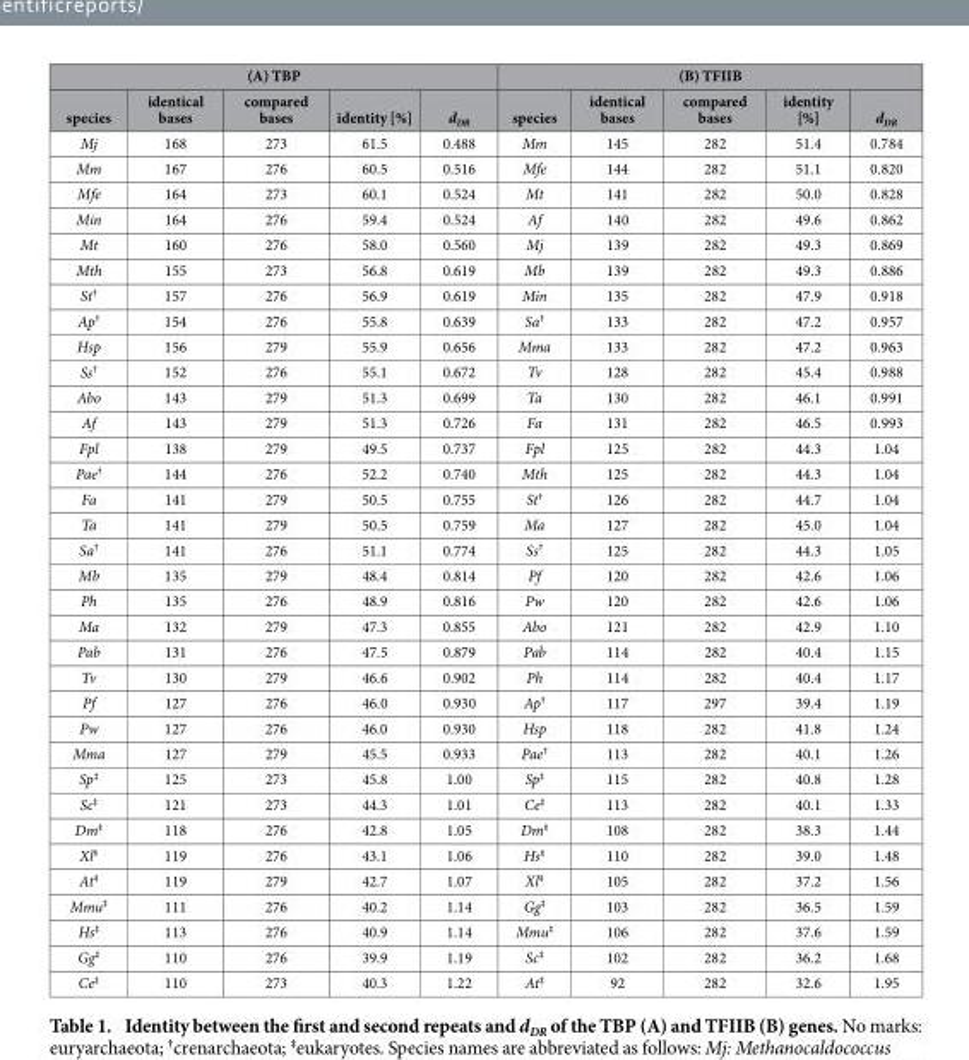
<table><thead><tr><td colspan="5">(A) TBP</td><td colspan="5">(B) TFIIB</td></tr><tr><td>species</td><td>identical bases</td><td>compared bases</td><td>identity [%]</td><td>d<sub>DR</sub></td><td>species</td><td>identical bases</td><td>compared bases</td><td>identity [%]</td><td>d<sub>DR</sub></td></tr></thead><tbody><tr><td>Mj</td><td>168</td><td>273</td><td>61.5</td><td>0.488</td><td>Mm</td><td>145</td><td>282</td><td>51.4</td><td>0.784</td></tr><tr><td>Mm</td><td>167</td><td>276</td><td>60.5</td><td>0.516</td><td>Mfe</td><td>144</td><td>282</td><td>51.1</td><td>0.820</td></tr><tr><td>Mfe</td><td>164</td><td>273</td><td>60.1</td><td>0.524</td><td>Mt</td><td>141</td><td>282</td><td>50.0</td><td>0.828</td></tr><tr><td>Min</td><td>164</td><td>276</td><td>59.4</td><td>0.524</td><td>Af</td><td>140</td><td>282</td><td>49.6</td><td>0.862</td></tr><tr><td>Mt</td><td>160</td><td>276</td><td>58.0</td><td>0.560</td><td>Mj</td><td>139</td><td>282</td><td>49.3</td><td>0.869</td></tr><tr><td>Mth</td><td>155</td><td>273</td><td>56.8</td><td>0.619</td><td>Mb</td><td>139</td><td>282</td><td>49.3</td><td>0.886</td></tr><tr><td>St<sup>†</sup></td><td>157</td><td>276</td><td>56.9</td><td>0.619</td><td>Min</td><td>135</td><td>282</td><td>47.9</td><td>0.918</td></tr><tr><td>Ap<sup>†</sup></td><td>154</td><td>276</td><td>55.8</td><td>0.639</td><td>Sa<sup>†</sup></td><td>133</td><td>282</td><td>47.2</td><td>0.957</td></tr><tr><td>Hsp</td><td>156</td><td>279</td><td>55.9</td><td>0.656</td><td>Mma</td><td>133</td><td>282</td><td>47.2</td><td>0.963</td></tr><tr><td>Ss<sup>†</sup></td><td>152</td><td>276</td><td>55.1</td><td>0.672</td><td>Tv</td><td>128</td><td>282</td><td>45.4</td><td>0.988</td></tr><tr><td>Abo</td><td>143</td><td>279</td><td>51.3</td><td>0.699</td><td>Ta</td><td>130</td><td>282</td><td>46.1</td><td>0.991</td></tr><tr><td>Af</td><td>143</td><td>279</td><td>51.3</td><td>0.726</td><td>Fa</td><td>131</td><td>282</td><td>46.5</td><td>0.993</td></tr><tr><td>Fpl</td><td>138</td><td>279</td><td>49.5</td><td>0.737</td><td>Fpl</td><td>125</td><td>282</td><td>44.3</td><td>1.04</td></tr><tr><td>Pae<sup>†</sup></td><td>144</td><td>276</td><td>52.2</td><td>0.740</td><td>Mth</td><td>125</td><td>282</td><td>44.3</td><td>1.04</td></tr><tr><td>Fa</td><td>141</td><td>279</td><td>50.5</td><td>0.755</td><td>St<sup>†</sup></td><td>126</td><td>282</td><td>44.7</td><td>1.04</td></tr><tr><td>Ta</td><td>141</td><td>279</td><td>50.5</td><td>0.759</td><td>Ma</td><td>127</td><td>282</td><td>45.0</td><td>1.04</td></tr><tr><td>Sa<sup>†</sup></td><td>141</td><td>276</td><td>51.1</td><td>0.774</td><td>Ss<sup>†</sup></td><td>125</td><td>282</td><td>44.3</td><td>1.05</td></tr><tr><td>Mb</td><td>135</td><td>279</td><td>48.4</td><td>0.814</td><td>Pf</td><td>120</td><td>282</td><td>42.6</td><td>1.06</td></tr><tr><td>Ph</td><td>135</td><td>276</td><td>48.9</td><td>0.816</td><td>Pw</td><td>120</td><td>282</td><td>42.6</td><td>1.06</td></tr><tr><td>Ma</td><td>132</td><td>279</td><td>47.3</td><td>0.855</td><td>Abo</td><td>121</td><td>282</td><td>42.9</td><td>1.10</td></tr><tr><td>Pab</td><td>131</td><td>276</td><td>47.5</td><td>0.879</td><td>Pab</td><td>114</td><td>282</td><td>40.4</td><td>1.15</td></tr><tr><td>Tv</td><td>130</td><td>279</td><td>46.6</td><td>0.902</td><td>Ph</td><td>114</td><td>282</td><td>40.4</td><td>1.17</td></tr><tr><td>Pf</td><td>127</td><td>276</td><td>46.0</td><td>0.930</td><td>Ap<sup>†</sup></td><td>117</td><td>297</td><td>39.4</td><td>1.19</td></tr><tr><td>Pw</td><td>127</td><td>276</td><td>46.0</td><td>0.930</td><td>Hsp</td><td>118</td><td>282</td><td>41.8</td><td>1.24</td></tr><tr><td>Mma</td><td>127</td><td>279</td><td>45.5</td><td>0.933</td><td>Pae<sup>†</sup></td><td>113</td><td>282</td><td>40.1</td><td>1.26</td></tr><tr><td>Sp<sup>‡</sup></td><td>125</td><td>273</td><td>45.8</td><td>1.00</td><td>Sp<sup>‡</sup></td><td>115</td><td>282</td><td>40.8</td><td>1.28</td></tr><tr><td>Sc<sup>‡</sup></td><td>121</td><td>273</td><td>44.3</td><td>1.01</td><td>Ce<sup>‡</sup></td><td>113</td><td>282</td><td>40.1</td><td>1.33</td></tr><tr><td>Dm<sup>‡</sup></td><td>118</td><td>276</td><td>42.8</td><td>1.05</td><td>Dm<sup>‡</sup></td><td>108</td><td>282</td><td>38.3</td><td>1.44</td></tr><tr><td>Xl<sup>‡</sup></td><td>119</td><td>276</td><td>43.1</td><td>1.06</td><td>Hs<sup>‡</sup></td><td>110</td><td>282</td><td>39.0</td><td>1.48</td></tr><tr><td>At<sup>‡</sup></td><td>119</td><td>279</td><td>42.7</td><td>1.07</td><td>Xl<sup>‡</sup></td><td>105</td><td>282</td><td>37.2</td><td>1.56</td></tr><tr><td>Mmu<sup>‡</sup></td><td>111</td><td>276</td><td>40.2</td><td>1.14</td><td>Gg<sup>‡</sup></td><td>103</td><td>282</td><td>36.5</td><td>1.59</td></tr><tr><td>Hs<sup>‡</sup></td><td>113</td><td>276</td><td>40.9</td><td>1.14</td><td>Mmu<sup>‡</sup></td><td>106</td><td>282</td><td>37.6</td><td>1.59</td></tr><tr><td>Gg<sup>‡</sup></td><td>110</td><td>276</td><td>39.9</td><td>1.19</td><td>Sc<sup>‡</sup></td><td>102</td><td>282</td><td>36.2</td><td>1.68</td></tr><tr><td>Ce<sup>‡</sup></td><td>110</td><td>273</td><td>40.3</td><td>1.22</td><td>At<sup>‡</sup></td><td>92</td><td>282</td><td>32.6</td><td>1.95</td></tr></tbody></table>